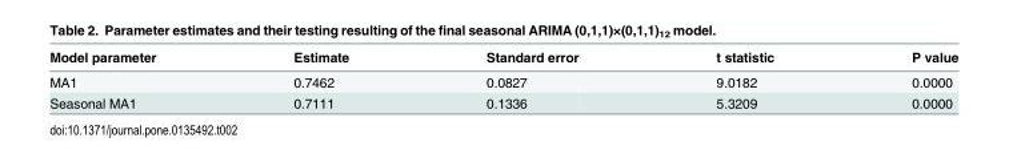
<table><thead><tr><td>Model parameter</td><td>Estimate</td><td>Standard error</td><td>t statistic</td><td>P value</td></tr></thead><tbody><tr><td>MA1</td><td>0.7462</td><td>0.0827</td><td>9.0182</td><td>0.0000</td></tr><tr><td>Seasonal MA1</td><td>0.7111</td><td>0.1336</td><td>5.3209</td><td>0.0000</td></tr></tbody></table>